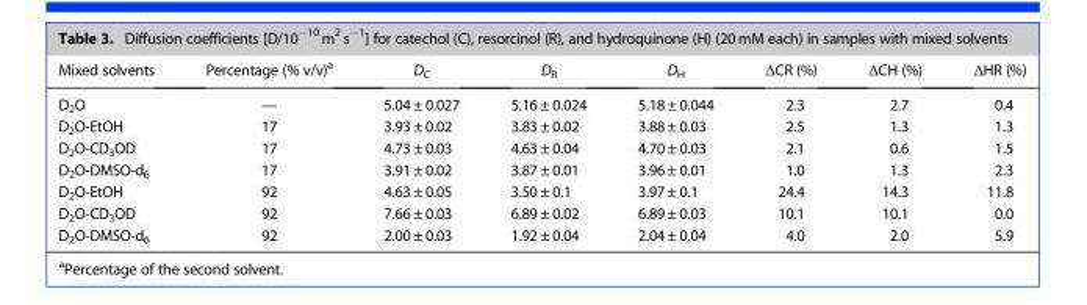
<table><thead><tr><td>Mixed solvents</td><td>Percentage (% v/v)<sup>a</sup></td><td>D<sub>C</sub></td><td>D<sub>R</sub></td><td>D<sub>H</sub></td><td>ΔCR (%)</td><td>ΔCH (%)</td><td>ΔHR (%)</td></tr></thead><tbody><tr><td>D<sub>2</sub>O</td><td>—</td><td>5.04 ± 0.027</td><td>5.16 ± 0.024</td><td>5.18 ± 0.044</td><td>2.3</td><td>2.7</td><td>0.4</td></tr><tr><td>D<sub>2</sub>O-EtOH</td><td>17</td><td>3.93 ± 0.02</td><td>3.83 ± 0.02</td><td>3.88 ± 0.03</td><td>2.5</td><td>1.3</td><td>1.3</td></tr><tr><td>D<sub>2</sub>O-CD<sub>3</sub>OD</td><td>17</td><td>4.73 ± 0.03</td><td>4.63 ± 0.04</td><td>4.70 ± 0.03</td><td>2.1</td><td>0.6</td><td>1.5</td></tr><tr><td>D<sub>2</sub>O-DMSO-d<sub>6</sub></td><td>17</td><td>3.91 ± 0.02</td><td>3.87 ± 0.01</td><td>3.96 ± 0.01</td><td>1.0</td><td>1.3</td><td>2.3</td></tr><tr><td>D<sub>2</sub>O-EtOH</td><td>92</td><td>4.63 ± 0.05</td><td>3.50 ± 0.1</td><td>3.97 ± 0.1</td><td>24.4</td><td>14.3</td><td>11.8</td></tr><tr><td>D<sub>2</sub>O-CD<sub>3</sub>OD</td><td>92</td><td>7.66 ± 0.03</td><td>6.89 ± 0.02</td><td>6.89 ± 0.03</td><td>10.1</td><td>10.1</td><td>0.0</td></tr><tr><td>D<sub>2</sub>O-DMSO-d<sub>6</sub></td><td>92</td><td>2.00 ± 0.03</td><td>1.92 ± 0.04</td><td>2.04 ± 0.04</td><td>4.0</td><td>2.0</td><td>5.9</td></tr></tbody></table>